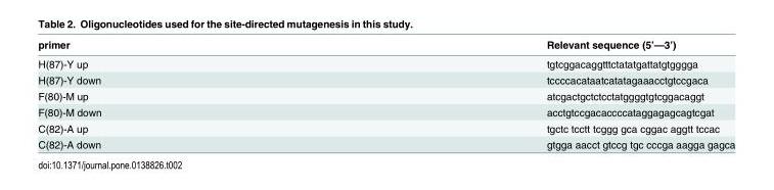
<table><thead><tr><td>primer</td><td>Relevant sequence (5’—3’)</td></tr></thead><tbody><tr><td>H(87)-Y up</td><td>tgtcggacaggtttctatatgattatgtgggga</td></tr><tr><td>H(87)-Y down</td><td>tccccacataatcatatagaaacctgtccgaca</td></tr><tr><td>F(80)-M up</td><td>atcgactgctctcctatggggtgtcggacaggt</td></tr><tr><td>F(80)-M down</td><td>acctgtccgacaccccataggagagcagtcgat</td></tr><tr><td>C(82)-A up</td><td>tgctc tcctt tcggg gca cggac aggtt tccac</td></tr><tr><td>C(82)-A down</td><td>gtgga aacct gtccg tgc cccga aagga gagca</td></tr></tbody></table>